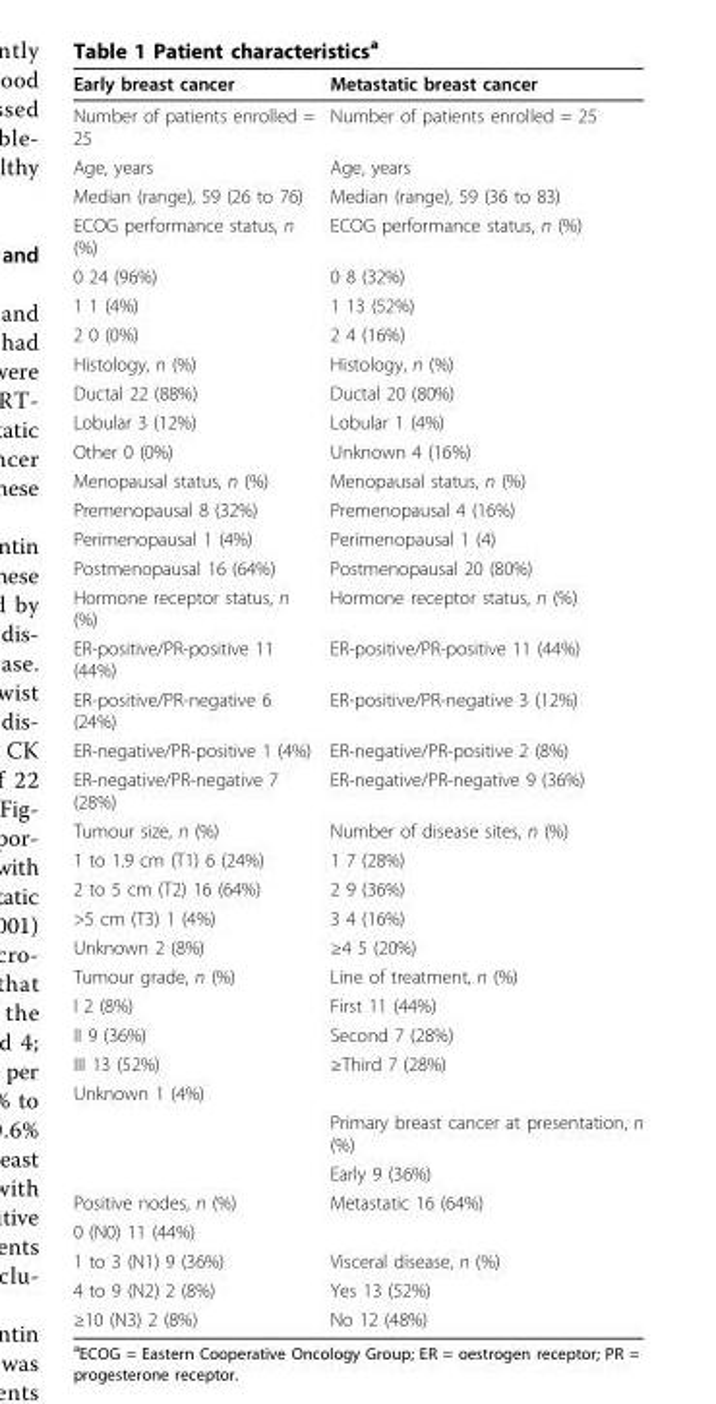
<table><thead><tr><td>Early breast cancer</td><td>Metastatic breast cancer</td></tr></thead><tbody><tr><td>Number of patients enrolled = 25</td><td>Number of patients enrolled = 25</td></tr><tr><td>Age, years</td><td>Age, years</td></tr><tr><td>Median (range), 59 (26 to 76)</td><td>Median (range), 59 (36 to 83)</td></tr><tr><td>ECOG performance status, n (%)</td><td>ECOG performance status, n (%)</td></tr><tr><td>0 24 (96%)</td><td>0 8 (32%)</td></tr><tr><td>1 1 (4%)</td><td>1 13 (52%)</td></tr><tr><td>2 0 (0%)</td><td>2 4 (16%)</td></tr><tr><td>Histology, n (%)</td><td>Histology, n (%)</td></tr><tr><td>Ductal 22 (88%)</td><td>Ductal 20 (80%)</td></tr><tr><td>Lobular 3 (12%)</td><td>Lobular 1 (4%)</td></tr><tr><td>Other 0 (0%)</td><td>Unknown 4 (16%)</td></tr><tr><td>Menopausal status, n (%)</td><td>Menopausal status, n (%)</td></tr><tr><td>Premenopausal 8 (32%)</td><td>Premenopausal 4 (16%)</td></tr><tr><td>Perimenopausal 1 (4%)</td><td>Perimenopausal 1 (4)</td></tr><tr><td>Postmenopausal 16 (64%)</td><td>Postmenopausal 20 (80%)</td></tr><tr><td>Hormone receptor status, n (%)</td><td>Hormone receptor status, n (%)</td></tr><tr><td>ER-positive/PR-positive 11 (44%)</td><td>ER-positive/PR-positive 11 (44%)</td></tr><tr><td>ER-positive/PR-negative 6 (24%)</td><td>ER-positive/PR-negative 3 (12%)</td></tr><tr><td>ER-negative/PR-positive 1 (4%)</td><td>ER-negative/PR-positive 2 (8%)</td></tr><tr><td>ER-negative/PR-negative 7 (28%)</td><td>ER-negative/PR-negative 9 (36%)</td></tr><tr><td>Tumour size, n (%)</td><td>Number of disease sites, n (%)</td></tr><tr><td>1 to 1.9 cm (T1) 6 (24%)</td><td>1 7 (28%)</td></tr><tr><td>2 to 5 cm (T2) 16 (64%)</td><td>2 9 (36%)</td></tr><tr><td>&gt;5 cm (T3) 1 (4%)</td><td>3 4 (16%)</td></tr><tr><td>Unknown 2 (8%)</td><td>≥4 5 (20%)</td></tr><tr><td>Tumour grade, n (%)</td><td>Line of treatment, n (%)</td></tr><tr><td>I 2 (8%)</td><td>First 11 (44%)</td></tr><tr><td>II 9 (36%)</td><td>Second 7 (28%)</td></tr><tr><td>III 13 (52%)</td><td>≥Third 7 (28%)</td></tr><tr><td colspan="2">Unknown 1 (4%)</td></tr><tr><td></td><td>Primary breast cancer at presentation, n (%)</td></tr><tr><td></td><td>Early 9 (36%)</td></tr><tr><td>Positive nodes, n (%)</td><td>Metastatic 16 (64%)</td></tr><tr><td colspan="2">0 (N0) 11 (44%)</td></tr><tr><td>1 to 3 (N1) 9 (36%)</td><td>Visceral disease, n (%)</td></tr><tr><td>4 to 9 (N2) 2 (8%)</td><td>Yes 13 (52%)</td></tr><tr><td>≥10 (N3) 2 (8%)</td><td>No 12 (48%)</td></tr></tbody></table>